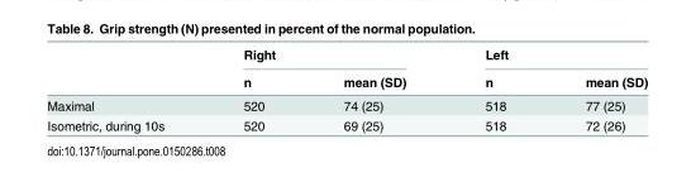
<table><thead><tr><td rowspan="2"></td><td colspan="2">Right</td><td colspan="2">Left</td></tr><tr><td>n</td><td>mean (SD)</td><td>n</td><td>mean (SD)</td></tr></thead><tbody><tr><td>Maximal</td><td>520</td><td>74 (25)</td><td>518</td><td>77 (25)</td></tr><tr><td>Isometric, during 10s</td><td>520</td><td>69 (25)</td><td>518</td><td>72 (26)</td></tr></tbody></table>